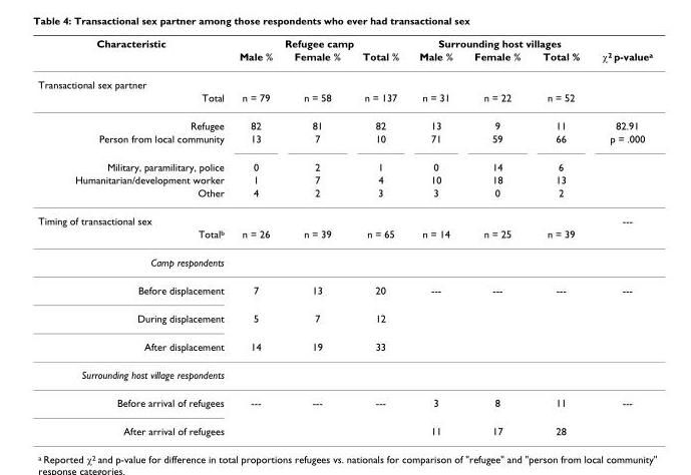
<table><thead><tr><td rowspan="2">Characteristic</td><td colspan="3">Refugee camp</td><td colspan="3">Surrounding host villages</td><td rowspan="2">χ<sup>2</sup> p-value<sup>a</sup></td></tr><tr><td>Male %</td><td>Female %</td><td>Total %</td><td>Male %</td><td>Female %</td><td>Total %</td></tr></thead><tbody><tr><td colspan="8">Transactional sex partner</td></tr><tr><td>Total</td><td>n = 79</td><td>n = 58</td><td>n = 137</td><td>n = 31</td><td>n = 22</td><td>n = 52</td><td></td></tr><tr><td>Refugee</td><td>82</td><td>81</td><td>82</td><td>13</td><td>9</td><td>11</td><td>82.91</td></tr><tr><td>Person from local community</td><td>13</td><td>7</td><td>10</td><td>71</td><td>59</td><td>66</td><td>p = .000</td></tr><tr><td>Military, paramilitary, police</td><td>0</td><td>2</td><td>1</td><td>0</td><td>14</td><td>6</td><td></td></tr><tr><td>Humanitarian/development worker</td><td>1</td><td>7</td><td>4</td><td>10</td><td>18</td><td>13</td><td></td></tr><tr><td>Other</td><td>4</td><td>2</td><td>3</td><td>3</td><td>0</td><td>2</td><td></td></tr><tr><td>Timing of transactional sex</td><td></td><td></td><td></td><td></td><td></td><td></td><td>---</td></tr><tr><td>Total<sup>b</sup></td><td>n = 26</td><td>n = 39</td><td>n = 65</td><td>n = 14</td><td>n = 25</td><td>n = 39</td><td></td></tr><tr><td colspan="8">Camp respondents</td></tr><tr><td>Before displacement</td><td>7</td><td>13</td><td>20</td><td>---</td><td>---</td><td>---</td><td>---</td></tr><tr><td>During displacement</td><td>5</td><td>7</td><td>12</td><td></td><td></td><td></td><td></td></tr><tr><td>After displacement</td><td>14</td><td>19</td><td>33</td><td></td><td></td><td></td><td></td></tr><tr><td colspan="8">Surrounding host village respondents</td></tr><tr><td>Before arrival of refugees</td><td>---</td><td>---</td><td>---</td><td>3</td><td>8</td><td>11</td><td>---</td></tr><tr><td>After arrival of refugees</td><td></td><td></td><td></td><td>11</td><td>17</td><td>28</td><td></td></tr></tbody></table>